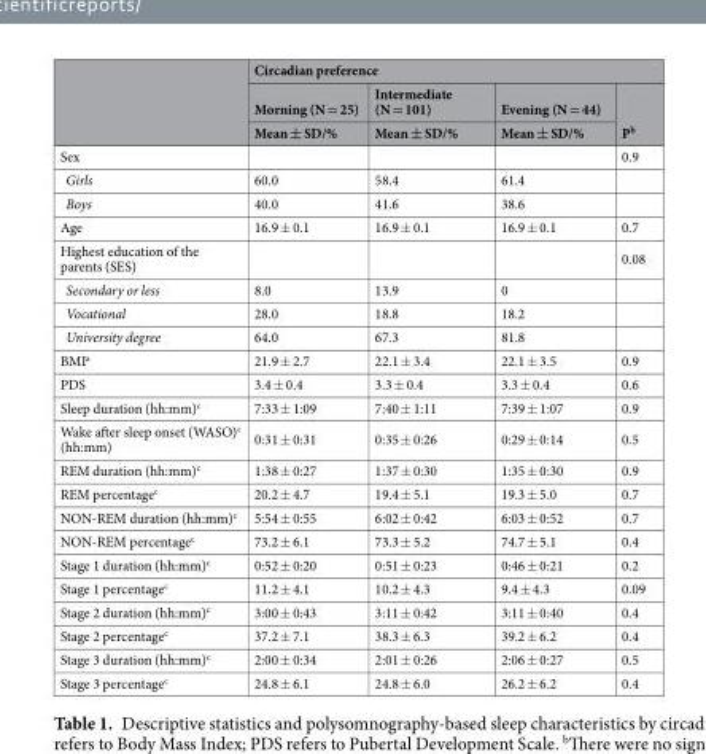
<table><thead><tr><td rowspan="3"></td><td colspan="4">Circadian preference</td></tr><tr><td rowspan="2">Morning (N = 25) Mean ± SD/%</td><td rowspan="2">Intermediate (N = 101) Mean ± SD/%</td><td rowspan="2">Evening (N = 44) Mean ± SD/%</td><td rowspan="2">P<sup>b</sup></td></tr><tr></tr></thead><tbody><tr><td>Sex</td><td></td><td></td><td></td><td>0.9</td></tr><tr><td>Girls</td><td>60.0</td><td>58.4</td><td>61.4</td><td></td></tr><tr><td>Boys</td><td>40.0</td><td>41.6</td><td>38.6</td><td></td></tr><tr><td>Age</td><td>16.9 ± 0.1</td><td>16.9 ± 0.1</td><td>16.9 ± 0.1</td><td>0.7</td></tr><tr><td>Highest education of the parents (SES)</td><td></td><td></td><td></td><td>0.08</td></tr><tr><td>Secondary or less</td><td>8.0</td><td>13.9</td><td>0</td><td></td></tr><tr><td>Vocational</td><td>28.0</td><td>18.8</td><td>18.2</td><td></td></tr><tr><td>University degree</td><td>64.0</td><td>67.3</td><td>81.8</td><td></td></tr><tr><td>BMI<sup>a</sup></td><td>21.9 ± 2.7</td><td>22.1 ± 3.4</td><td>22.1 ± 3.5</td><td>0.9</td></tr><tr><td>PDS</td><td>3.4 ± 0.4</td><td>3.3 ± 0.4</td><td>3.3 ± 0.4</td><td>0.6</td></tr><tr><td>Sleep duration (hh:mm)<sup>c</sup></td><td>7:33 ± 1:09</td><td>7:40 ± 1:11</td><td>7:39 ± 1:07</td><td>0.9</td></tr><tr><td>Wake after sleep onset (WASO)<sup>c</sup> (hh:mm)</td><td>0:31 ± 0:31</td><td>0:35 ± 0:26</td><td>0:29 ± 0:14</td><td>0.5</td></tr><tr><td>REM duration (hh:mm)<sup>c</sup></td><td>1:38 ± 0:27</td><td>1:37 ± 0:30</td><td>1:35 ± 0:30</td><td>0.9</td></tr><tr><td>REM percentage<sup>c</sup></td><td>20.2 ± 4.7</td><td>19.4 ± 5.1</td><td>19.3 ± 5.0</td><td>0.7</td></tr><tr><td>NON-REM duration (hh:mm)<sup>c</sup></td><td>5:54 ± 0:55</td><td>6:02 ± 0:42</td><td>6:03 ± 0:52</td><td>0.7</td></tr><tr><td>NON-REM percentage<sup>c</sup></td><td>73.2 ± 6.1</td><td>73.3 ± 5.2</td><td>74.7 ± 5.1</td><td>0.4</td></tr><tr><td>Stage 1 duration (hh:mm)<sup>c</sup></td><td>0:52 ± 0:20</td><td>0:51 ± 0:23</td><td>0:46 ± 0:21</td><td>0.2</td></tr><tr><td>Stage 1 percentage<sup>c</sup></td><td>11.2 ± 4.1</td><td>10.2 ± 4.3</td><td>9.4 ± 4.3</td><td>0.09</td></tr><tr><td>Stage 2 duration (hh:mm)<sup>c</sup></td><td>3:00 ± 0:43</td><td>3:11 ± 0:42</td><td>3:11 ± 0:40</td><td>0.4</td></tr><tr><td>Stage 2 percentage<sup>c</sup></td><td>37.2 ± 7.1</td><td>38.3 ± 6.3</td><td>39.2 ± 6.2</td><td>0.4</td></tr><tr><td>Stage 3 duration (hh:mm)<sup>c</sup></td><td>2:00 ± 0:34</td><td>2:01 ± 0:26</td><td>2:06 ± 0:27</td><td>0.5</td></tr><tr><td>Stage 3 percentage<sup>c</sup></td><td>24.8 ± 6.1</td><td>24.8 ± 6.0</td><td>26.2 ± 6.2</td><td>0.4</td></tr></tbody></table>